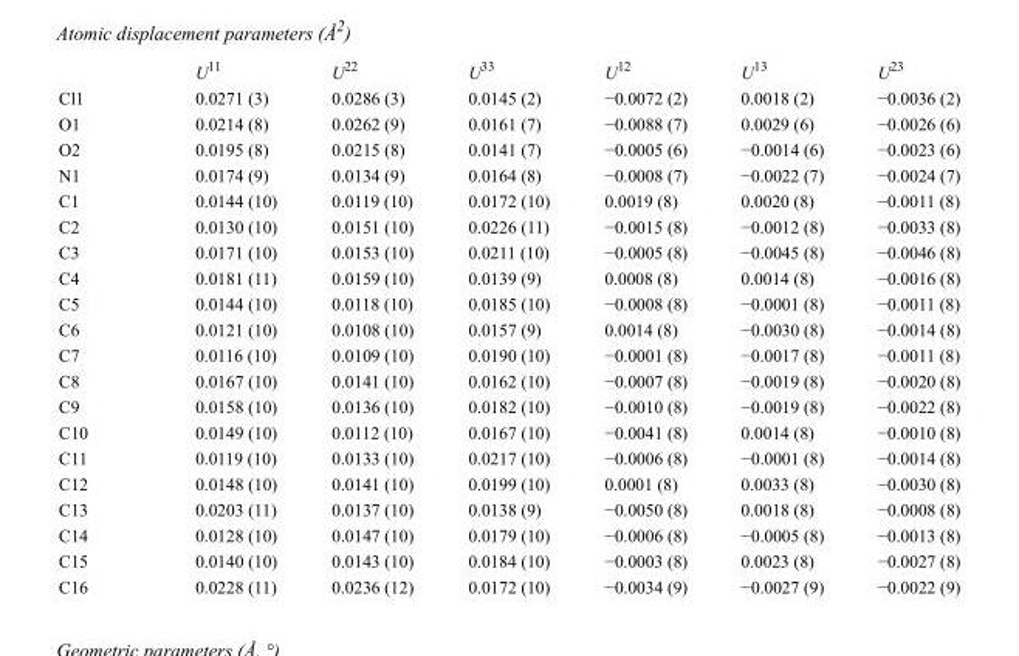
<table><thead><tr><td></td><td>U<sup>11</sup></td><td>U<sup>22</sup></td><td>U<sup>33</sup></td><td>U<sup>12</sup></td><td>U<sup>13</sup></td><td>U<sup>23</sup></td></tr></thead><tbody><tr><td>Cl1</td><td>0.0271 (3)</td><td>0.0286 (3)</td><td>0.0145 (2)</td><td>−0.0072 (2)</td><td>0.0018 (2)</td><td>−0.0036 (2)</td></tr><tr><td>O1</td><td>0.0214 (8)</td><td>0.0262 (9)</td><td>0.0161 (7)</td><td>−0.0088 (7)</td><td>0.0029 (6)</td><td>−0.0026 (6)</td></tr><tr><td>O2</td><td>0.0195 (8)</td><td>0.0215 (8)</td><td>0.0141 (7)</td><td>−0.0005 (6)</td><td>−0.0014 (6)</td><td>−0.0023 (6)</td></tr><tr><td>N1</td><td>0.0174 (9)</td><td>0.0134 (9)</td><td>0.0164 (8)</td><td>−0.0008 (7)</td><td>−0.0022 (7)</td><td>−0.0024 (7)</td></tr><tr><td>C1</td><td>0.0144 (10)</td><td>0.0119 (10)</td><td>0.0172 (10)</td><td>0.0019 (8)</td><td>0.0020 (8)</td><td>−0.0011 (8)</td></tr><tr><td>C2</td><td>0.0130 (10)</td><td>0.0151 (10)</td><td>0.0226 (11)</td><td>−0.0015 (8)</td><td>−0.0012 (8)</td><td>−0.0033 (8)</td></tr><tr><td>C3</td><td>0.0171 (10)</td><td>0.0153 (10)</td><td>0.0211 (10)</td><td>−0.0005 (8)</td><td>−0.0045 (8)</td><td>−0.0046 (8)</td></tr><tr><td>C4</td><td>0.0181 (11)</td><td>0.0159 (10)</td><td>0.0139 (9)</td><td>0.0008 (8)</td><td>0.0014 (8)</td><td>−0.0016 (8)</td></tr><tr><td>C5</td><td>0.0144 (10)</td><td>0.0118 (10)</td><td>0.0185 (10)</td><td>−0.0008 (8)</td><td>−0.0001 (8)</td><td>−0.0011 (8)</td></tr><tr><td>C6</td><td>0.0121 (10)</td><td>0.0108 (10)</td><td>0.0157 (9)</td><td>0.0014 (8)</td><td>−0.0030 (8)</td><td>−0.0014 (8)</td></tr><tr><td>C7</td><td>0.0116 (10)</td><td>0.0109 (10)</td><td>0.0190 (10)</td><td>−0.0001 (8)</td><td>−0.0017 (8)</td><td>−0.0011 (8)</td></tr><tr><td>C8</td><td>0.0167 (10)</td><td>0.0141 (10)</td><td>0.0162 (10)</td><td>−0.0007 (8)</td><td>−0.0019 (8)</td><td>−0.0020 (8)</td></tr><tr><td>C9</td><td>0.0158 (10)</td><td>0.0136 (10)</td><td>0.0182 (10)</td><td>−0.0010 (8)</td><td>−0.0019 (8)</td><td>−0.0022 (8)</td></tr><tr><td>C10</td><td>0.0149 (10)</td><td>0.0112 (10)</td><td>0.0167 (10)</td><td>−0.0041 (8)</td><td>0.0014 (8)</td><td>−0.0010 (8)</td></tr><tr><td>C11</td><td>0.0119 (10)</td><td>0.0133 (10)</td><td>0.0217 (10)</td><td>−0.0006 (8)</td><td>−0.0001 (8)</td><td>−0.0014 (8)</td></tr><tr><td>C12</td><td>0.0148 (10)</td><td>0.0141 (10)</td><td>0.0199 (10)</td><td>0.0001 (8)</td><td>0.0033 (8)</td><td>−0.0030 (8)</td></tr><tr><td>C13</td><td>0.0203 (11)</td><td>0.0137 (10)</td><td>0.0138 (9)</td><td>−0.0050 (8)</td><td>0.0018 (8)</td><td>−0.0008 (8)</td></tr><tr><td>C14</td><td>0.0128 (10)</td><td>0.0147 (10)</td><td>0.0179 (10)</td><td>−0.0006 (8)</td><td>−0.0005 (8)</td><td>−0.0013 (8)</td></tr><tr><td>C15</td><td>0.0140 (10)</td><td>0.0143 (10)</td><td>0.0184 (10)</td><td>−0.0003 (8)</td><td>0.0023 (8)</td><td>−0.0027 (8)</td></tr><tr><td>C16</td><td>0.0228 (11)</td><td>0.0236 (12)</td><td>0.0172 (10)</td><td>−0.0034 (9)</td><td>−0.0027 (9)</td><td>−0.0022 (9)</td></tr></tbody></table>